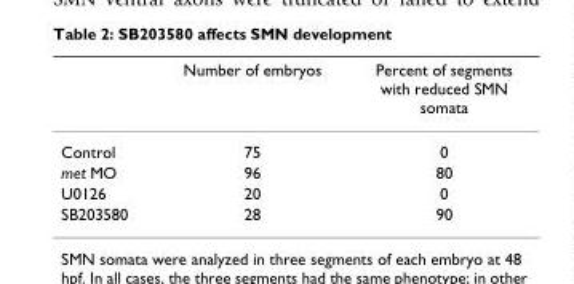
<table><thead><tr><td></td><td>Number of embryos</td><td>Percent of segments with reduced SMN somata</td></tr></thead><tbody><tr><td>Control</td><td>75</td><td>0</td></tr><tr><td>met MO</td><td>96</td><td>80</td></tr><tr><td>U0126</td><td>20</td><td>0</td></tr><tr><td>SB203580</td><td>28</td><td>90</td></tr></tbody></table>